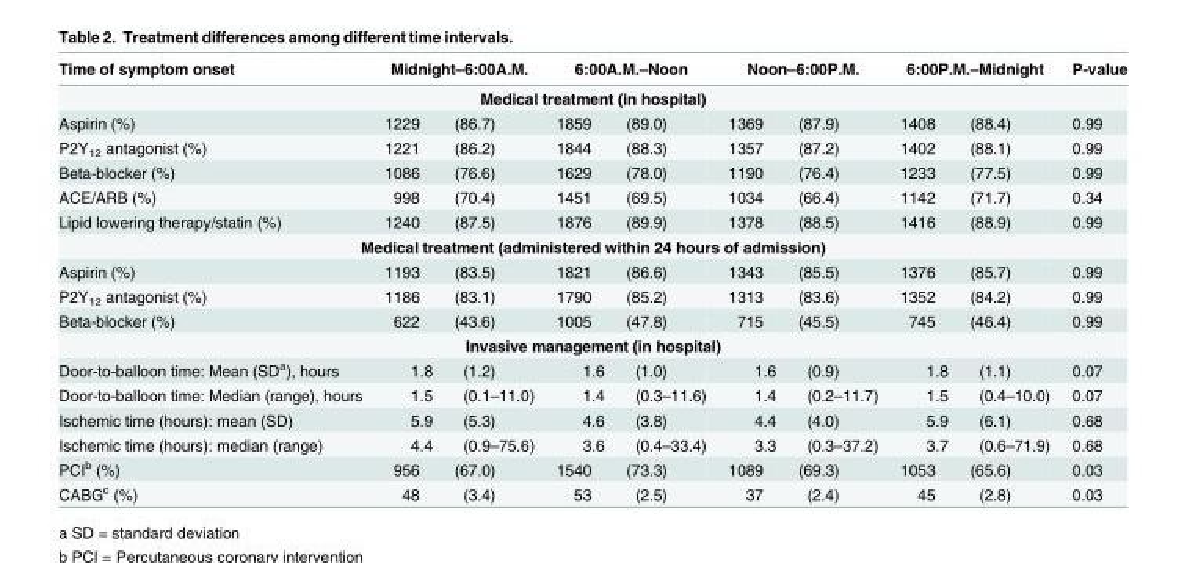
<table><thead><tr><td>Time of symptom onset</td><td colspan="2">Midnight–6:00A.M.</td><td colspan="2">6:00A.M.–Noon</td><td colspan="2">Noon–6:00P.M.</td><td colspan="2">6:00P.M.–Midnight</td><td>P-value</td></tr><tr><td colspan="10">Medical treatment (in hospital)</td></tr><tr><td>Aspirin (%)</td><td>1229</td><td>(86.7)</td><td>1859</td><td>(89.0)</td><td>1369</td><td>(87.9)</td><td>1408</td><td>(88.4)</td><td>0.99</td></tr></thead><tbody><tr><td>P2Y<sub>12</sub> antagonist (%)</td><td>1221</td><td>(86.2)</td><td>1844</td><td>(88.3)</td><td>1357</td><td>(87.2)</td><td>1402</td><td>(88.1)</td><td>0.99</td></tr><tr><td>Beta-blocker (%)</td><td>1086</td><td>(76.6)</td><td>1629</td><td>(78.0)</td><td>1190</td><td>(76.4)</td><td>1233</td><td>(77.5)</td><td>0.99</td></tr><tr><td>ACE/ARB (%)</td><td>998</td><td>(70.4)</td><td>1451</td><td>(69.5)</td><td>1034</td><td>(66.4)</td><td>1142</td><td>(71.7)</td><td>0.34</td></tr><tr><td>Lipid lowering therapy/statin (%)</td><td>1240</td><td>(87.5)</td><td>1876</td><td>(89.9)</td><td>1378</td><td>(88.5)</td><td>1416</td><td>(88.9)</td><td>0.99</td></tr><tr><td colspan="10">Medical treatment (administered within 24 hours of admission)</td></tr><tr><td>Aspirin (%)</td><td>1193</td><td>(83.5)</td><td>1821</td><td>(86.6)</td><td>1343</td><td>(85.5)</td><td>1376</td><td>(85.7)</td><td>0.99</td></tr><tr><td>P2Y<sub>12</sub> antagonist (%)</td><td>1186</td><td>(83.1)</td><td>1790</td><td>(85.2)</td><td>1313</td><td>(83.6)</td><td>1352</td><td>(84.2)</td><td>0.99</td></tr><tr><td>Beta-blocker (%)</td><td>622</td><td>(43.6)</td><td>1005</td><td>(47.8)</td><td>715</td><td>(45.5)</td><td>745</td><td>(46.4)</td><td>0.99</td></tr><tr><td colspan="10">Invasive management (in hospital)</td></tr><tr><td>Door-to-balloon time: Mean (SD<sup>a</sup>), hours</td><td>1.8</td><td>(1.2)</td><td>1.6</td><td>(1.0)</td><td>1.6</td><td>(0.9)</td><td>1.8</td><td>(1.1)</td><td>0.07</td></tr><tr><td>Door-to-balloon time: Median (range), hours</td><td>1.5</td><td>(0.1–11.0)</td><td>1.4</td><td>(0.3–11.6)</td><td>1.4</td><td>(0.2–11.7)</td><td>1.5</td><td>(0.4–10.0)</td><td>0.07</td></tr><tr><td>Ischemic time (hours): mean (SD)</td><td>5.9</td><td>(5.3)</td><td>4.6</td><td>(3.8)</td><td>4.4</td><td>(4.0)</td><td>5.9</td><td>(6.1)</td><td>0.68</td></tr><tr><td>Ischemic time (hours): median (range)</td><td>4.4</td><td>(0.9–75.6)</td><td>3.6</td><td>(0.4–33.4)</td><td>3.3</td><td>(0.3–37.2)</td><td>3.7</td><td>(0.6–71.9)</td><td>0.68</td></tr><tr><td>PCI<sup>b</sup> (%)</td><td>956</td><td>(67.0)</td><td>1540</td><td>(73.3)</td><td>1089</td><td>(69.3)</td><td>1053</td><td>(65.6)</td><td>0.03</td></tr><tr><td>CABG<sup>c</sup> (%)</td><td>48</td><td>(3.4)</td><td>53</td><td>(2.5)</td><td>37</td><td>(2.4)</td><td>45</td><td>(2.8)</td><td>0.03</td></tr></tbody></table>